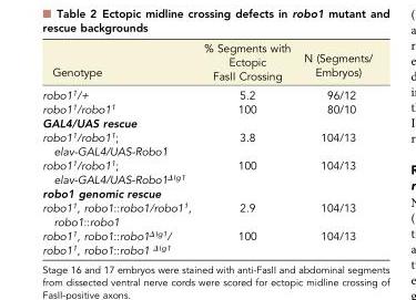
<table><thead><tr><td>Genotype</td><td>% Segments with Ectopic FasII Crossing</td><td>N (Segments/ Embryos)</td></tr></thead><tbody><tr><td>robo1<sup>1</sup>/+</td><td>5.2</td><td>96/12</td></tr><tr><td>robo1<sup>1</sup>/robo1<sup>1</sup></td><td>100</td><td>80/10</td></tr><tr><td colspan="3">GAL4/UAS rescue</td></tr><tr><td>robo1<sup>1</sup>/robo1<sup>1</sup>; elav-GAL4/UAS-Robo1</td><td>3.8</td><td>104/13</td></tr><tr><td>robo1<sup>1</sup>/robo1<sup>1</sup>; elav-GAL4/UAS-Robo1<sup>ΔIg1</sup></td><td>100</td><td>104/13</td></tr><tr><td colspan="3">robo1 genomic rescue</td></tr><tr><td>robo1<sup>1</sup>, robo1::robo1/robo1<sup>1</sup>, robo1::robo1</td><td>2.9</td><td>104/13</td></tr><tr><td>robo1<sup>1</sup>, robo1::robo1<sup>ΔIg1</sup>/</td><td rowspan="2">100</td><td rowspan="2">104/13</td></tr><tr><td>robo1<sup>1</sup>, robo1::robo1 <sup>ΔIg1</sup></td></tr></tbody></table>